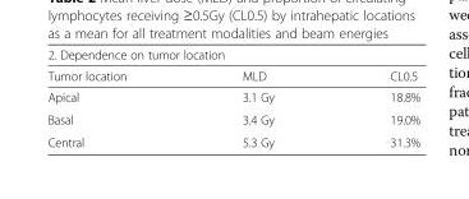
<table><thead><tr><td colspan="3">2. Dependence on tumor location</td></tr><tr><td>Tumor location</td><td>MLD</td><td>CL0.5</td></tr></thead><tbody><tr><td>Apical</td><td>3.1 Gy</td><td>18.8%</td></tr><tr><td>Basal</td><td>3.4 Gy</td><td>19.0%</td></tr><tr><td>Central</td><td>5.3 Gy</td><td>31.3%</td></tr></tbody></table>